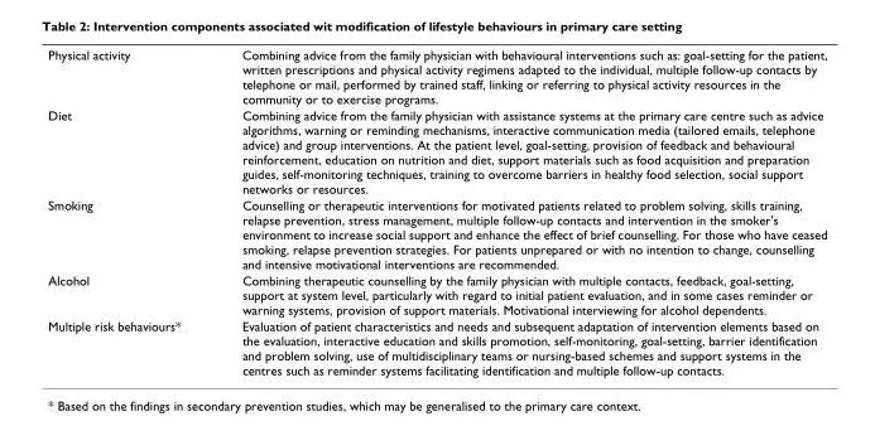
<table><tbody><tr><td>Physical activity</td><td>Combining advice from the family physician with behavioural interventions such as: goal-setting for the patient, written prescriptions and physical activity regimens adapted to the individual, multiple follow-up contacts by telephone or mail, performed by trained staff, linking or referring to physical activity resources in the community or to exercise programs.</td></tr><tr><td>Diet</td><td>Combining advice from the family physician with assistance systems at the primary care centre such as advice algorithms, warning or reminding mechanisms, interactive communication media (tailored emails, telephone advice) and group interventions. At the patient level, goal-setting, provision of feedback and behavioural reinforcement, education on nutrition and diet, support materials such as food acquisition and preparation guides, self-monitoring techniques, training to overcome barriers in healthy food selection, social support networks or resources.</td></tr><tr><td>Smoking</td><td>Counselling or therapeutic interventions for motivated patients related to problem solving, skills training, relapse prevention, stress management, multiple follow-up contacts and intervention in the smoker&#x27;s environment to increase social support and enhance the effect of brief counselling. For those who have ceased smoking, relapse prevention strategies. For patients unprepared or with no intention to change, counselling and intensive motivational interventions are recommended.</td></tr><tr><td>Alcohol</td><td>Combining therapeutic counselling by the family physician with multiple contacts, feedback, goal-setting, support at system level, particularly with regard to initial patient evaluation, and in some cases reminder or warning systems, provision of support materials. Motivational interviewing for alcohol dependents.</td></tr><tr><td>Multiple risk behaviours*</td><td>Evaluation of patient characteristics and needs and subsequent adaptation of intervention elements based on the evaluation, interactive education and skills promotion, self-monitoring, goal-setting, barrier identification and problem solving, use of multidisciplinary teams or nursing-based schemes and support systems in the centres such as reminder systems facilitating identification and multiple follow-up contacts.</td></tr></tbody></table>